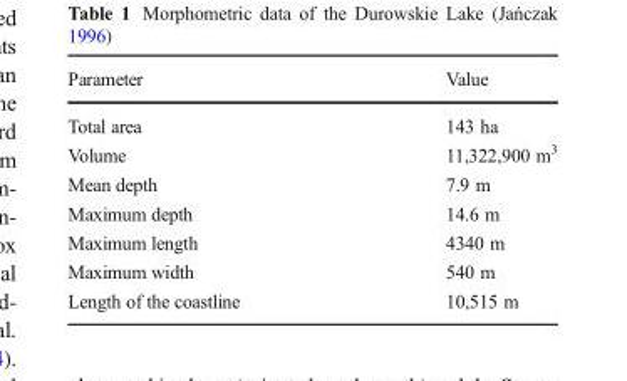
<table><thead><tr><td>Parameter</td><td>Value</td></tr></thead><tbody><tr><td>Total area</td><td>143 ha</td></tr><tr><td>Volume</td><td>11,322,900 m<sup>3</sup></td></tr><tr><td>Mean depth</td><td>7.9 m</td></tr><tr><td>Maximum depth</td><td>14.6 m</td></tr><tr><td>Maximum length</td><td>4340 m</td></tr><tr><td>Maximum width</td><td>540 m</td></tr><tr><td>Length of the coastline</td><td>10,515 m</td></tr></tbody></table>